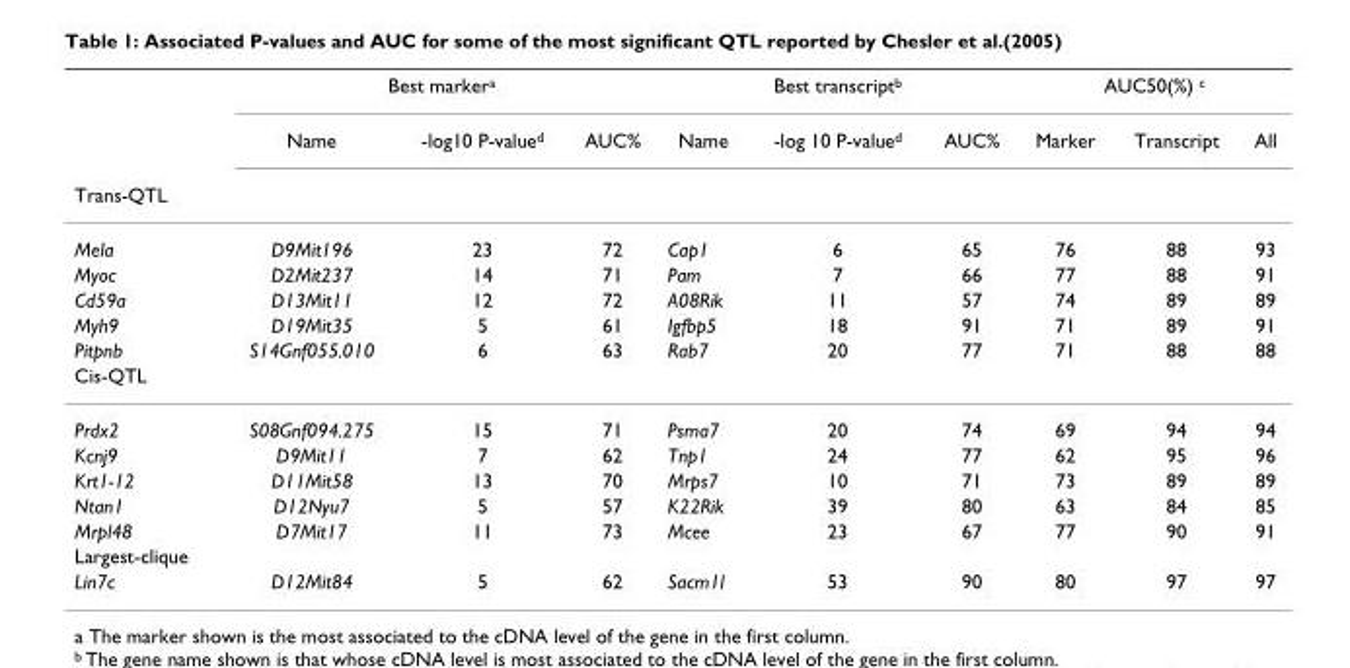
<table><thead><tr><td rowspan="3">Trans-QTL</td><td colspan="3">Best markera</td><td colspan="3">Best transcriptb</td><td colspan="3">AUC50(%) c</td></tr><tr><td rowspan="2">Name</td><td rowspan="2">-log10 P-valued</td><td rowspan="2">AUC%</td><td rowspan="2">Name</td><td rowspan="2">-log 10 P-valued</td><td rowspan="2">AUC%</td><td rowspan="2">Marker</td><td rowspan="2">Transcript</td><td rowspan="2">All</td></tr><tr></tr></thead><tbody><tr><td>Mela</td><td>D9Mit196</td><td>23</td><td>72</td><td>Cap1</td><td>6</td><td>65</td><td>76</td><td>88</td><td>93</td></tr><tr><td>Myoc</td><td>D2Mit237</td><td>14</td><td>71</td><td>Pam</td><td>7</td><td>66</td><td>77</td><td>88</td><td>91</td></tr><tr><td>Cd59a</td><td>D13Mit11</td><td>12</td><td>72</td><td>A08Rik</td><td>11</td><td>57</td><td>74</td><td>89</td><td>89</td></tr><tr><td>Myh9</td><td>D19Mit35</td><td>5</td><td>61</td><td>Igfbp5</td><td>18</td><td>91</td><td>71</td><td>89</td><td>91</td></tr><tr><td>Pitpnb</td><td>S14Gnf055.010</td><td>6</td><td>63</td><td>Rab7</td><td>20</td><td>77</td><td>71</td><td>88</td><td>88</td></tr><tr><td colspan="10">Cis-QTL</td></tr><tr><td>Prdx2</td><td>S08Gnf094.275</td><td>15</td><td>71</td><td>Psma7</td><td>20</td><td>74</td><td>69</td><td>94</td><td>94</td></tr><tr><td>Kcnj9</td><td>D9Mit11</td><td>7</td><td>62</td><td>Tnp1</td><td>24</td><td>77</td><td>62</td><td>95</td><td>96</td></tr><tr><td>Krt1-12</td><td>D11Mit58</td><td>13</td><td>70</td><td>Mrps7</td><td>10</td><td>71</td><td>73</td><td>89</td><td>89</td></tr><tr><td>Ntan1</td><td>D12Nyu7</td><td>5</td><td>57</td><td>K22Rik</td><td>39</td><td>80</td><td>63</td><td>84</td><td>85</td></tr><tr><td>Mrpl48</td><td>D7Mit17</td><td>11</td><td>73</td><td>Mcee</td><td>23</td><td>67</td><td>77</td><td>90</td><td>91</td></tr><tr><td colspan="10">Largest-clique</td></tr><tr><td>Lin7c</td><td>D12Mit84</td><td>5</td><td>62</td><td>Sacm1l</td><td>53</td><td>90</td><td>80</td><td>97</td><td>97</td></tr></tbody></table>